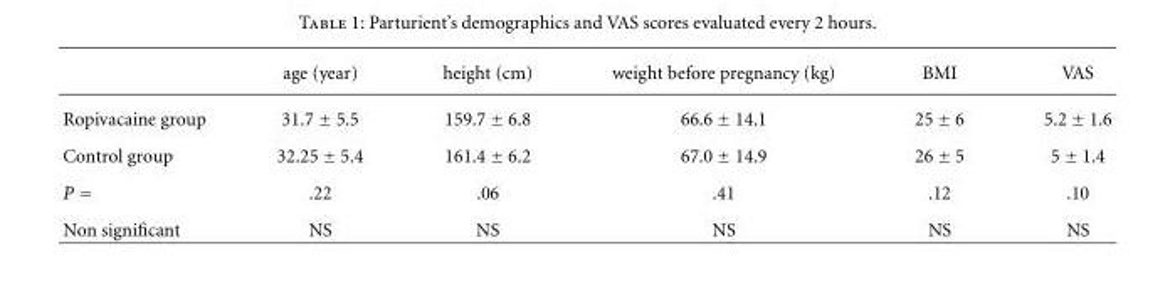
<table><thead><tr><td></td><td>age (year)</td><td>height (cm)</td><td>weight before pregnancy (kg)</td><td>BMI</td><td>VAS</td></tr></thead><tbody><tr><td>Ropivacaine group</td><td>31.7 ± 5.5</td><td>159.7 ± 6.8</td><td>66.6 ± 14.1</td><td>25 ± 6</td><td>5.2 ± 1.6</td></tr><tr><td>Control group</td><td>32.25 ± 5.4</td><td>161.4 ± 6.2</td><td>67.0 ± 14.9</td><td>26 ± 5</td><td>5 ± 1.4</td></tr><tr><td>P =</td><td>.22</td><td>.06</td><td>.41</td><td>.12</td><td>.10</td></tr><tr><td>Non significant</td><td>NS</td><td>NS</td><td>NS</td><td>NS</td><td>NS</td></tr></tbody></table>